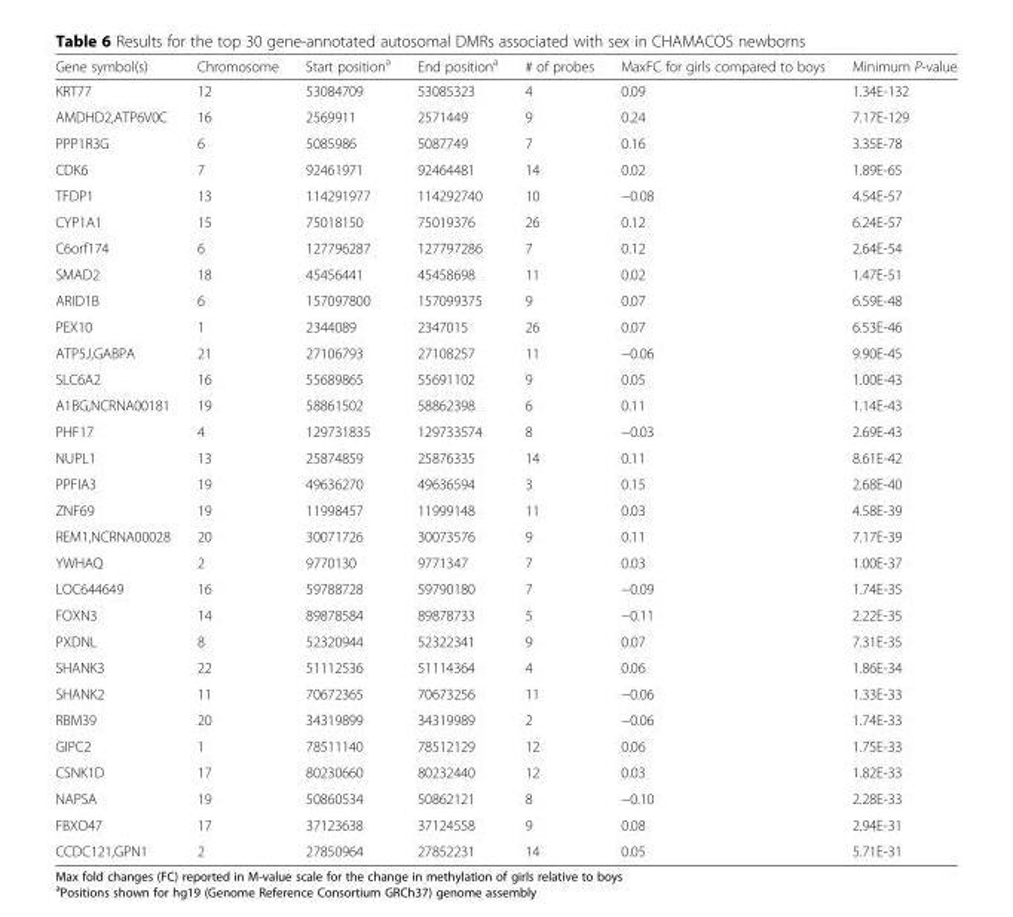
<table><thead><tr><td>Gene symbol(s)</td><td>Chromosome</td><td>Start position<sup>a</sup></td><td>End position<sup>a</sup></td><td># of probes</td><td>MaxFC for girls compared to boys</td><td>Minimum P-value</td></tr></thead><tbody><tr><td>KRT77</td><td>12</td><td>53084709</td><td>53085323</td><td>4</td><td>0.09</td><td>1.34E-132</td></tr><tr><td>AMDHD2,ATP6V0C</td><td>16</td><td>2569911</td><td>2571449</td><td>9</td><td>0.24</td><td>7.17E-129</td></tr><tr><td>PPP1R3G</td><td>6</td><td>5085986</td><td>5087749</td><td>7</td><td>0.16</td><td>3.35E-78</td></tr><tr><td>CDK6</td><td>7</td><td>92461971</td><td>92464481</td><td>14</td><td>0.02</td><td>1.89E-65</td></tr><tr><td>TFDP1</td><td>13</td><td>114291977</td><td>114292740</td><td>10</td><td>−0.08</td><td>4.54E-57</td></tr><tr><td>CYP1A1</td><td>15</td><td>75018150</td><td>75019376</td><td>26</td><td>0.12</td><td>6.24E-57</td></tr><tr><td>C6orf174</td><td>6</td><td>127796287</td><td>127797286</td><td>7</td><td>0.12</td><td>2.64E-54</td></tr><tr><td>SMAD2</td><td>18</td><td>45456441</td><td>45458698</td><td>11</td><td>0.02</td><td>1.47E-51</td></tr><tr><td>ARID1B</td><td>6</td><td>157097800</td><td>157099375</td><td>9</td><td>0.07</td><td>6.59E-48</td></tr><tr><td>PEX10</td><td>1</td><td>2344089</td><td>2347015</td><td>26</td><td>0.07</td><td>6.53E-46</td></tr><tr><td>ATP5J,GABPA</td><td>21</td><td>27106793</td><td>27108257</td><td>11</td><td>−0.06</td><td>9.90E-45</td></tr><tr><td>SLC6A2</td><td>16</td><td>55689865</td><td>55691102</td><td>9</td><td>0.05</td><td>1.00E-43</td></tr><tr><td>A1BG,NCRNA00181</td><td>19</td><td>58861502</td><td>58862398</td><td>6</td><td>0.11</td><td>1.14E-43</td></tr><tr><td>PHF17</td><td>4</td><td>129731835</td><td>129733574</td><td>8</td><td>−0.03</td><td>2.69E-43</td></tr><tr><td>NUPL1</td><td>13</td><td>25874859</td><td>25876335</td><td>14</td><td>0.11</td><td>8.61E-42</td></tr><tr><td>PPFIA3</td><td>19</td><td>49636270</td><td>49636594</td><td>3</td><td>0.15</td><td>2.68E-40</td></tr><tr><td>ZNF69</td><td>19</td><td>11998457</td><td>11999148</td><td>11</td><td>0.03</td><td>4.58E-39</td></tr><tr><td>REM1,NCRNA00028</td><td>20</td><td>30071726</td><td>30073576</td><td>9</td><td>0.11</td><td>7.17E-39</td></tr><tr><td>YWHAQ</td><td>2</td><td>9770130</td><td>9771347</td><td>7</td><td>0.03</td><td>1.00E-37</td></tr><tr><td>LOC644649</td><td>16</td><td>59788728</td><td>59790180</td><td>7</td><td>−0.09</td><td>1.74E-35</td></tr><tr><td>FOXN3</td><td>14</td><td>89878584</td><td>89878733</td><td>5</td><td>−0.11</td><td>2.22E-35</td></tr><tr><td>PXDNL</td><td>8</td><td>52320944</td><td>52322341</td><td>9</td><td>0.07</td><td>7.31E-35</td></tr><tr><td>SHANK3</td><td>22</td><td>51112536</td><td>51114364</td><td>4</td><td>0.06</td><td>1.86E-34</td></tr><tr><td>SHANK2</td><td>11</td><td>70672365</td><td>70673256</td><td>11</td><td>−0.06</td><td>1.33E-33</td></tr><tr><td>RBM39</td><td>20</td><td>34319899</td><td>34319989</td><td>2</td><td>−0.06</td><td>1.74E-33</td></tr><tr><td>GIPC2</td><td>1</td><td>78511140</td><td>78512129</td><td>12</td><td>0.06</td><td>1.75E-33</td></tr><tr><td>CSNK1D</td><td>17</td><td>80230660</td><td>80232440</td><td>12</td><td>0.03</td><td>1.82E-33</td></tr><tr><td>NAPSA</td><td>19</td><td>50860534</td><td>50862121</td><td>8</td><td>−0.10</td><td>2.28E-33</td></tr><tr><td>FBXO47</td><td>17</td><td>37123638</td><td>37124558</td><td>9</td><td>0.08</td><td>2.94E-31</td></tr><tr><td>CCDC121,GPN1</td><td>2</td><td>27850964</td><td>27852231</td><td>14</td><td>0.05</td><td>5.71E-31</td></tr></tbody></table>